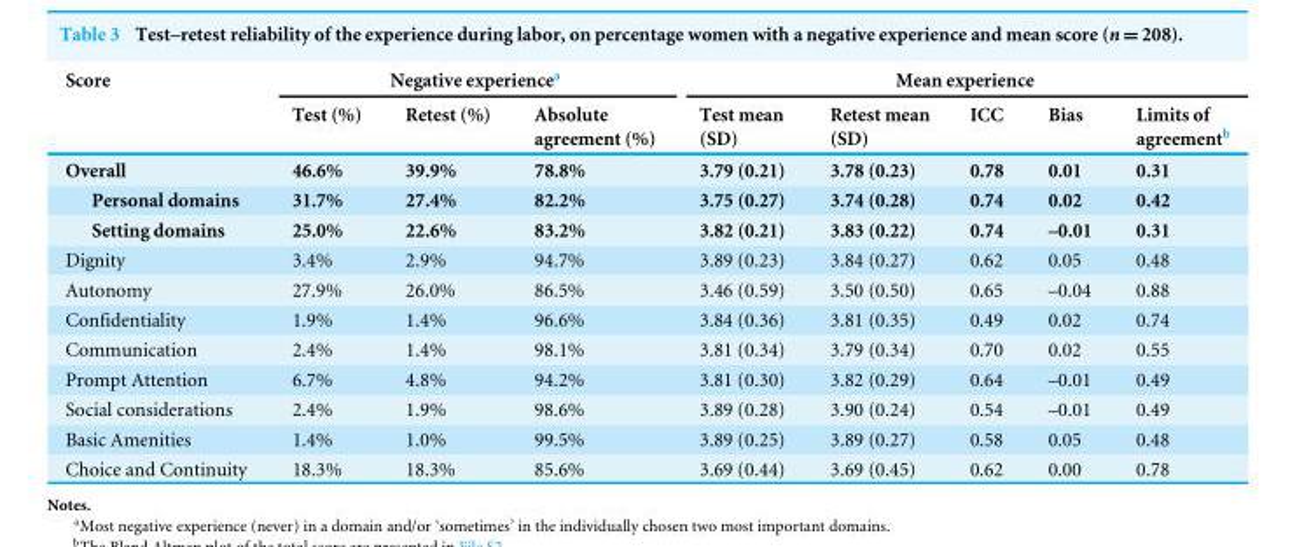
<table><thead><tr><td rowspan="2">Score</td><td colspan="3">Negative experience<sup>a</sup></td><td colspan="5">Mean experience</td></tr><tr><td>Test (%)</td><td>Retest (%)</td><td>Absolute agreement (%)</td><td>Test mean (SD)</td><td>Retest mean (SD)</td><td>ICC</td><td>Bias</td><td>Limits of agreement<sup>b</sup></td></tr></thead><tbody><tr><td>Overall</td><td>46.6%</td><td>39.9%</td><td>78.8%</td><td>3.79 (0.21)</td><td>3.78 (0.23)</td><td>0.78</td><td>0.01</td><td>0.31</td></tr><tr><td>Personal domains</td><td>31.7%</td><td>27.4%</td><td>82.2%</td><td>3.75 (0.27)</td><td>3.74 (0.28)</td><td>0.74</td><td>0.02</td><td>0.42</td></tr><tr><td>Setting domains</td><td>25.0%</td><td>22.6%</td><td>83.2%</td><td>3.82 (0.21)</td><td>3.83 (0.22)</td><td>0.74</td><td>–0.01</td><td>0.31</td></tr><tr><td>Dignity</td><td>3.4%</td><td>2.9%</td><td>94.7%</td><td>3.89 (0.23)</td><td>3.84 (0.27)</td><td>0.62</td><td>0.05</td><td>0.48</td></tr><tr><td>Autonomy</td><td>27.9%</td><td>26.0%</td><td>86.5%</td><td>3.46 (0.59)</td><td>3.50 (0.50)</td><td>0.65</td><td>–0.04</td><td>0.88</td></tr><tr><td>Confidentiality</td><td>1.9%</td><td>1.4%</td><td>96.6%</td><td>3.84 (0.36)</td><td>3.81 (0.35)</td><td>0.49</td><td>0.02</td><td>0.74</td></tr><tr><td>Communication</td><td>2.4%</td><td>1.4%</td><td>98.1%</td><td>3.81 (0.34)</td><td>3.79 (0.34)</td><td>0.70</td><td>0.02</td><td>0.55</td></tr><tr><td>Prompt Attention</td><td>6.7%</td><td>4.8%</td><td>94.2%</td><td>3.81 (0.30)</td><td>3.82 (0.29)</td><td>0.64</td><td>–0.01</td><td>0.49</td></tr><tr><td>Social considerations</td><td>2.4%</td><td>1.9%</td><td>98.6%</td><td>3.89 (0.28)</td><td>3.90 (0.24)</td><td>0.54</td><td>–0.01</td><td>0.49</td></tr><tr><td>Basic Amenities</td><td>1.4%</td><td>1.0%</td><td>99.5%</td><td>3.89 (0.25)</td><td>3.89 (0.27)</td><td>0.58</td><td>0.05</td><td>0.48</td></tr><tr><td>Choice and Continuity</td><td>18.3%</td><td>18.3%</td><td>85.6%</td><td>3.69 (0.44)</td><td>3.69 (0.45)</td><td>0.62</td><td>0.00</td><td>0.78</td></tr></tbody></table>